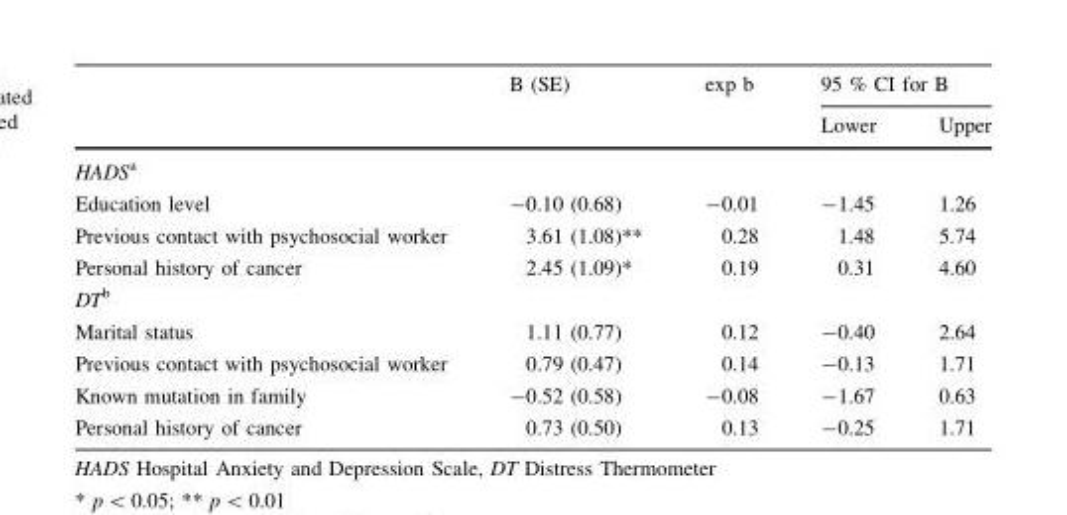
<table><thead><tr><td rowspan="2"></td><td rowspan="2">B (SE)</td><td rowspan="2">exp b</td><td colspan="2">95 % CI for B</td></tr><tr><td>Lower</td><td>Upper</td></tr></thead><tbody><tr><td colspan="5">HADS<sup>a</sup></td></tr><tr><td>Education level</td><td>-0.10 (0.68)</td><td>-0.01</td><td>-1.45</td><td>1.26</td></tr><tr><td>Previous contact with psychosocial worker</td><td>3.61 (1.08)**</td><td>0.28</td><td>1.48</td><td>5.74</td></tr><tr><td>Personal history of cancer</td><td>2.45 (1.09)*</td><td>0.19</td><td>0.31</td><td>4.60</td></tr><tr><td colspan="5">DT<sup>b</sup></td></tr><tr><td>Marital status</td><td>1.11 (0.77)</td><td>0.12</td><td>-0.40</td><td>2.64</td></tr><tr><td>Previous contact with psychosocial worker</td><td>0.79 (0.47)</td><td>0.14</td><td>-0.13</td><td>1.71</td></tr><tr><td>Known mutation in family</td><td>-0.52 (0.58)</td><td>-0.08</td><td>-1.67</td><td>0.63</td></tr><tr><td>Personal history of cancer</td><td>0.73 (0.50)</td><td>0.13</td><td>-0.25</td><td>1.71</td></tr></tbody></table>